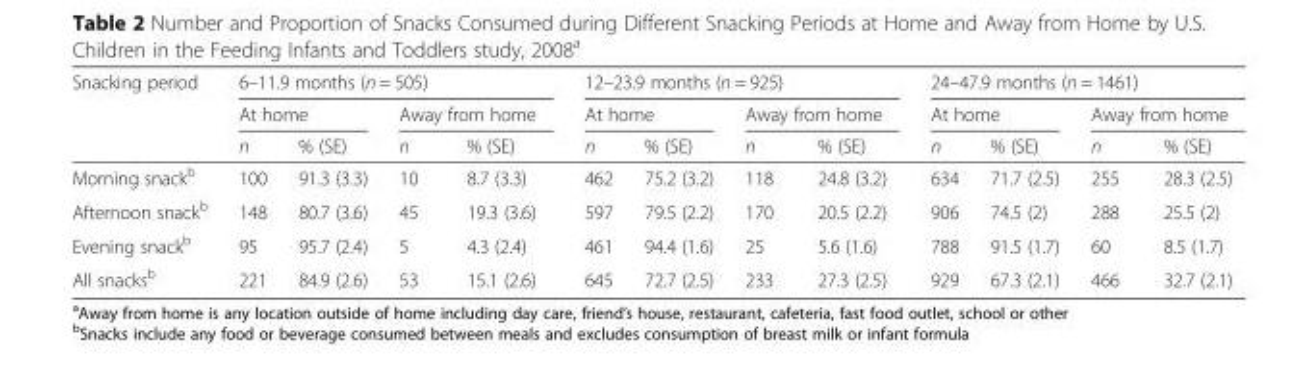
<table><thead><tr><td rowspan="3">Snacking period</td><td colspan="4">6–11.9 months (n = 505)</td><td colspan="4">12–23.9 months (n = 925)</td><td colspan="4">24–47.9 months (n = 1461)</td></tr><tr><td colspan="2">At home</td><td colspan="2">Away from home</td><td colspan="2">At home</td><td colspan="2">Away from home</td><td colspan="2">At home</td><td colspan="2">Away from home</td></tr><tr><td>n</td><td>% (SE)</td><td>n</td><td>% (SE)</td><td>n</td><td>% (SE)</td><td>n</td><td>% (SE)</td><td>n</td><td>% (SE)</td><td>n</td><td>% (SE)</td></tr></thead><tbody><tr><td>Morning snack<sup>b</sup></td><td>100</td><td>91.3 (3.3)</td><td>10</td><td>8.7 (3.3)</td><td>462</td><td>75.2 (3.2)</td><td>118</td><td>24.8 (3.2)</td><td>634</td><td>71.7 (2.5)</td><td>255</td><td>28.3 (2.5)</td></tr><tr><td>Afternoon snack<sup>b</sup></td><td>148</td><td>80.7 (3.6)</td><td>45</td><td>19.3 (3.6)</td><td>597</td><td>79.5 (2.2)</td><td>170</td><td>20.5 (2.2)</td><td>906</td><td>74.5 (2)</td><td>288</td><td>25.5 (2)</td></tr><tr><td>Evening snack<sup>b</sup></td><td>95</td><td>95.7 (2.4)</td><td>5</td><td>4.3 (2.4)</td><td>461</td><td>94.4 (1.6)</td><td>25</td><td>5.6 (1.6)</td><td>788</td><td>91.5 (1.7)</td><td>60</td><td>8.5 (1.7)</td></tr><tr><td>All snacks<sup>b</sup></td><td>221</td><td>84.9 (2.6)</td><td>53</td><td>15.1 (2.6)</td><td>645</td><td>72.7 (2.5)</td><td>233</td><td>27.3 (2.5)</td><td>929</td><td>67.3 (2.1)</td><td>466</td><td>32.7 (2.1)</td></tr></tbody></table>